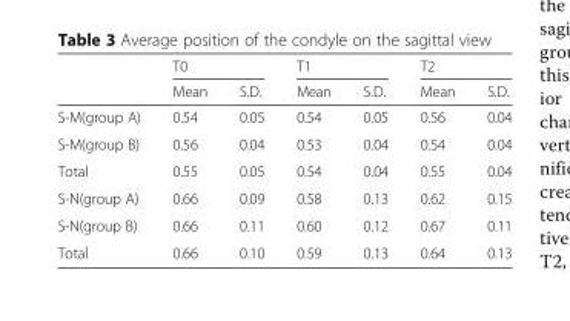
<table><thead><tr><td rowspan="2"></td><td colspan="2">T0</td><td colspan="2">T1</td><td colspan="2">T2</td></tr><tr><td>Mean</td><td>S.D.</td><td>Mean</td><td>S.D.</td><td>Mean</td><td>S.D.</td></tr></thead><tbody><tr><td>S-M(group A)</td><td>0.54</td><td>0.05</td><td>0.54</td><td>0.05</td><td>0.56</td><td>0.04</td></tr><tr><td>S-M(group B)</td><td>0.56</td><td>0.04</td><td>0.53</td><td>0.04</td><td>0.54</td><td>0.04</td></tr><tr><td>Total</td><td>0.55</td><td>0.05</td><td>0.54</td><td>0.04</td><td>0.55</td><td>0.04</td></tr><tr><td>S-N(group A)</td><td>0.66</td><td>0.09</td><td>0.58</td><td>0.13</td><td>0.62</td><td>0.15</td></tr><tr><td>S-N(group B)</td><td>0.66</td><td>0.11</td><td>0.60</td><td>0.12</td><td>0.67</td><td>0.11</td></tr><tr><td>Total</td><td>0.66</td><td>0.10</td><td>0.59</td><td>0.13</td><td>0.64</td><td>0.13</td></tr></tbody></table>